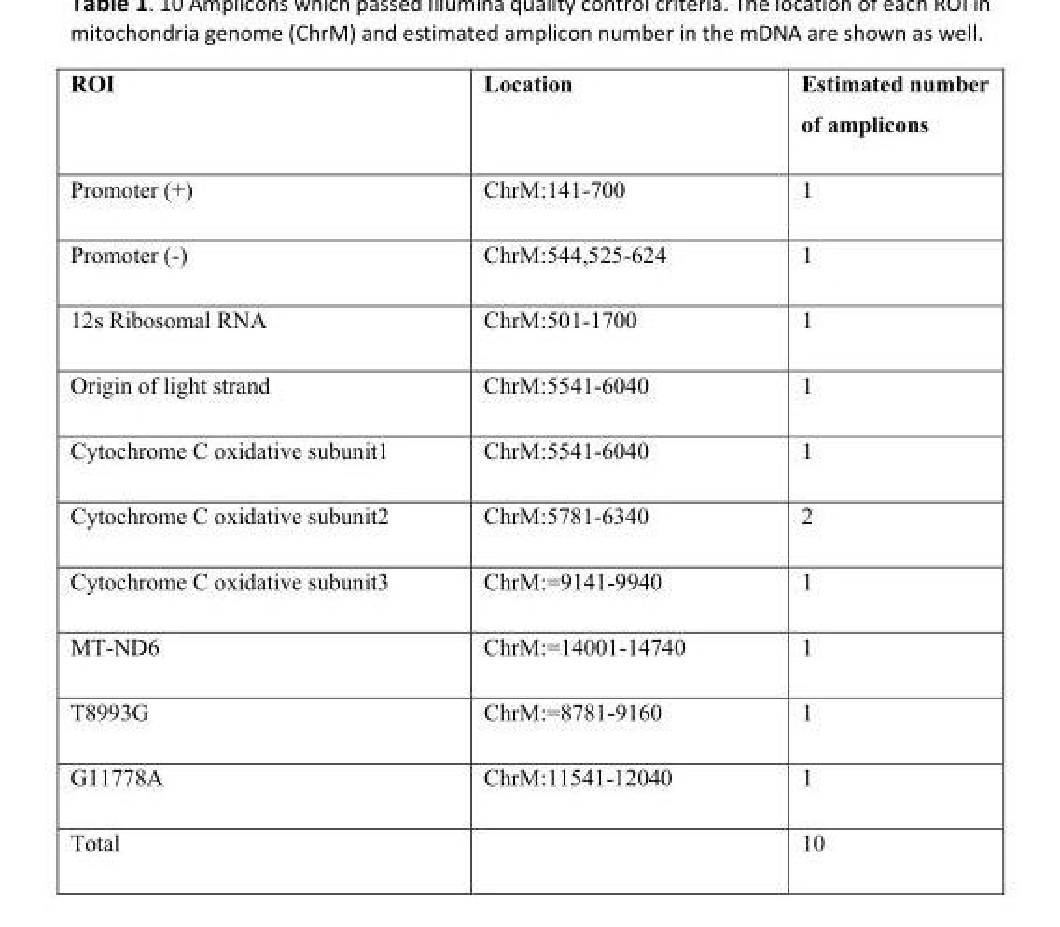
<table><thead><tr><td>ROI</td><td>Location</td><td>Estimated number of amplicons</td></tr></thead><tbody><tr><td>Promoter (+)</td><td>ChrM:141-700</td><td>1</td></tr><tr><td>Promoter (-)</td><td>ChrM:544,525-624</td><td>1</td></tr><tr><td>12s Ribosomal RNA</td><td>ChrM:501-1700</td><td>1</td></tr><tr><td>Origin of light strand</td><td>ChrM:5541-6040</td><td>1</td></tr><tr><td>Cytochrome C oxidative subunit1</td><td>ChrM:5541-6040</td><td>1</td></tr><tr><td>Cytochrome C oxidative subunit2</td><td>ChrM:5781-6340</td><td>2</td></tr><tr><td>Cytochrome C oxidative subunit3</td><td>ChrM:=9141-9940</td><td>1</td></tr><tr><td>MT-ND6</td><td>ChrM:=14001-14740</td><td>1</td></tr><tr><td>T8993G</td><td>ChrM:=8781-9160</td><td>1</td></tr><tr><td>G11778A</td><td>ChrM:11541-12040</td><td>1</td></tr><tr><td>Total</td><td></td><td>10</td></tr></tbody></table>